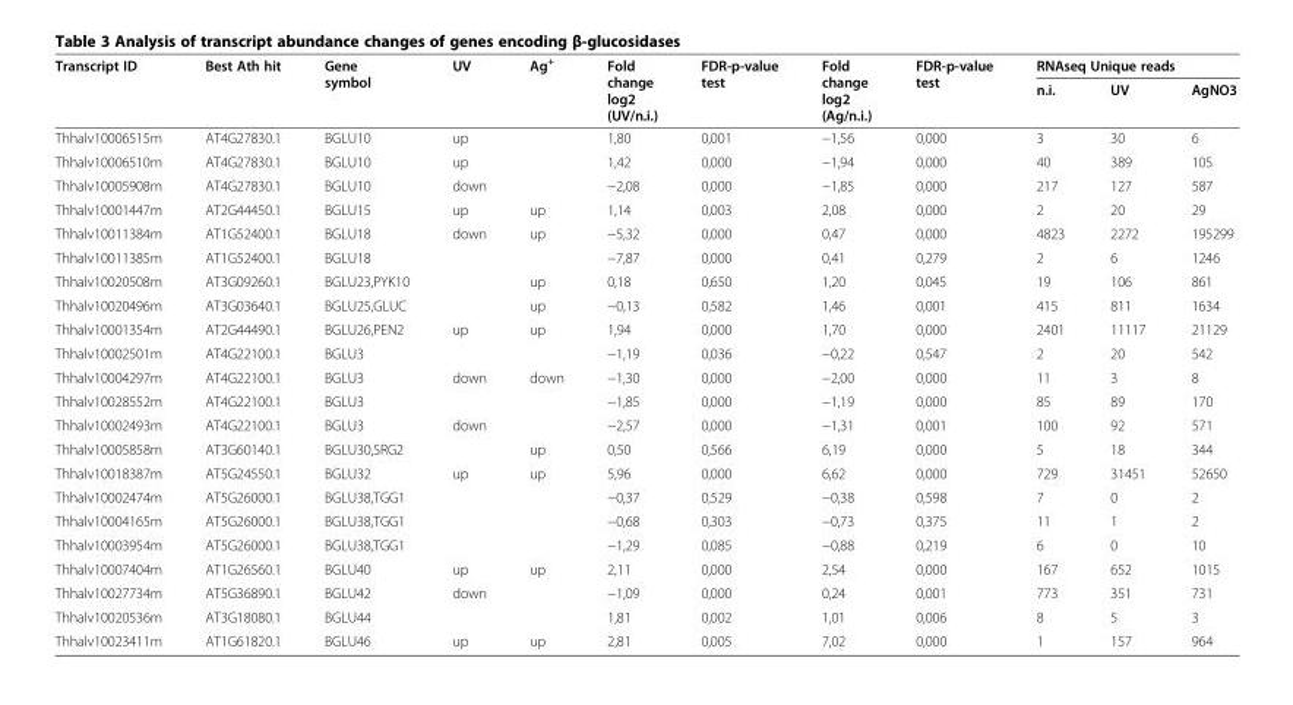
<table><thead><tr><td rowspan="2">Transcript ID</td><td rowspan="2">Best Ath hit</td><td rowspan="2">Gene symbol</td><td rowspan="2">UV</td><td rowspan="2">Ag<sup>+</sup></td><td rowspan="2">Fold change log2 (UV/n.i.)</td><td rowspan="2">FDR-p-value test</td><td rowspan="2">Fold change log2 (Ag/n.i.)</td><td rowspan="2">FDR-p-value test</td><td colspan="3">RNAseq Unique reads</td></tr><tr><td>n.i.</td><td>UV</td><td>AgNO3</td></tr></thead><tbody><tr><td>Thhalv10006515m</td><td>AT4G27830.1</td><td>BGLU10</td><td>up</td><td></td><td>1,80</td><td>0,001</td><td>−1,56</td><td>0,000</td><td>3</td><td>30</td><td>6</td></tr><tr><td>Thhalv10006510m</td><td>AT4G27830.1</td><td>BGLU10</td><td>up</td><td></td><td>1,42</td><td>0,000</td><td>−1,94</td><td>0,000</td><td>40</td><td>389</td><td>105</td></tr><tr><td>Thhalv10005908m</td><td>AT4G27830.1</td><td>BGLU10</td><td>down</td><td></td><td>−2,08</td><td>0,000</td><td>−1,85</td><td>0,000</td><td>217</td><td>127</td><td>587</td></tr><tr><td>Thhalv10001447m</td><td>AT2G44450.1</td><td>BGLU15</td><td>up</td><td>up</td><td>1,14</td><td>0,003</td><td>2,08</td><td>0,000</td><td>2</td><td>20</td><td>29</td></tr><tr><td>Thhalv10011384m</td><td>AT1G52400.1</td><td>BGLU18</td><td>down</td><td>up</td><td>−5,32</td><td>0,000</td><td>0,47</td><td>0,000</td><td>4823</td><td>2272</td><td>195299</td></tr><tr><td>Thhalv10011385m</td><td>AT1G52400.1</td><td>BGLU18</td><td></td><td></td><td>−7,87</td><td>0,000</td><td>0,41</td><td>0,279</td><td>2</td><td>6</td><td>1246</td></tr><tr><td>Thhalv10020508m</td><td>AT3G09260.1</td><td>BGLU23,PYK10</td><td></td><td>up</td><td>0,18</td><td>0,650</td><td>1,20</td><td>0,045</td><td>19</td><td>106</td><td>861</td></tr><tr><td>Thhalv10020496m</td><td>AT3G03640.1</td><td>BGLU25,GLUC</td><td></td><td>up</td><td>−0,13</td><td>0,582</td><td>1,46</td><td>0,001</td><td>415</td><td>811</td><td>1634</td></tr><tr><td>Thhalv10001354m</td><td>AT2G44490.1</td><td>BGLU26,PEN2</td><td>up</td><td>up</td><td>1,94</td><td>0,000</td><td>1,70</td><td>0,000</td><td>2401</td><td>11117</td><td>21129</td></tr><tr><td>Thhalv10002501m</td><td>AT4G22100.1</td><td>BGLU3</td><td></td><td></td><td>−1,19</td><td>0,036</td><td>−0,22</td><td>0,547</td><td>2</td><td>20</td><td>542</td></tr><tr><td>Thhalv10004297m</td><td>AT4G22100.1</td><td>BGLU3</td><td>down</td><td>down</td><td>−1,30</td><td>0,000</td><td>−2,00</td><td>0,000</td><td>11</td><td>3</td><td>8</td></tr><tr><td>Thhalv10028552m</td><td>AT4G22100.1</td><td>BGLU3</td><td></td><td></td><td>−1,85</td><td>0,000</td><td>−1,19</td><td>0,000</td><td>85</td><td>89</td><td>170</td></tr><tr><td>Thhalv10002493m</td><td>AT4G22100.1</td><td>BGLU3</td><td>down</td><td></td><td>−2,57</td><td>0,000</td><td>−1,31</td><td>0,001</td><td>100</td><td>92</td><td>571</td></tr><tr><td>Thhalv10005858m</td><td>AT3G60140.1</td><td>BGLU30,SRG2</td><td></td><td>up</td><td>0,50</td><td>0,566</td><td>6,19</td><td>0,000</td><td>5</td><td>18</td><td>344</td></tr><tr><td>Thhalv10018387m</td><td>AT5G24550.1</td><td>BGLU32</td><td>up</td><td>up</td><td>5,96</td><td>0,000</td><td>6,62</td><td>0,000</td><td>729</td><td>31451</td><td>52650</td></tr><tr><td>Thhalv10002474m</td><td>AT5G26000.1</td><td>BGLU38,TGG1</td><td></td><td></td><td>−0,37</td><td>0,529</td><td>−0,38</td><td>0,598</td><td>7</td><td>0</td><td>2</td></tr><tr><td>Thhalv10004165m</td><td>AT5G26000.1</td><td>BGLU38,TGG1</td><td></td><td></td><td>−0,68</td><td>0,303</td><td>−0,73</td><td>0,375</td><td>11</td><td>1</td><td>2</td></tr><tr><td>Thhalv10003954m</td><td>AT5G26000.1</td><td>BGLU38,TGG1</td><td></td><td></td><td>−1,29</td><td>0,085</td><td>−0,88</td><td>0,219</td><td>6</td><td>0</td><td>10</td></tr><tr><td>Thhalv10007404m</td><td>AT1G26560.1</td><td>BGLU40</td><td>up</td><td>up</td><td>2,11</td><td>0,000</td><td>2,54</td><td>0,000</td><td>167</td><td>652</td><td>1015</td></tr><tr><td>Thhalv10027734m</td><td>AT5G36890.1</td><td>BGLU42</td><td>down</td><td></td><td>−1,09</td><td>0,000</td><td>0,24</td><td>0,001</td><td>773</td><td>351</td><td>731</td></tr><tr><td>Thhalv10020536m</td><td>AT3G18080.1</td><td>BGLU44</td><td></td><td></td><td>1,81</td><td>0,002</td><td>1,01</td><td>0,006</td><td>8</td><td>5</td><td>3</td></tr><tr><td>Thhalv10023411m</td><td>AT1G61820.1</td><td>BGLU46</td><td>up</td><td>up</td><td>2,81</td><td>0,005</td><td>7,02</td><td>0,000</td><td>1</td><td>157</td><td>964</td></tr></tbody></table>